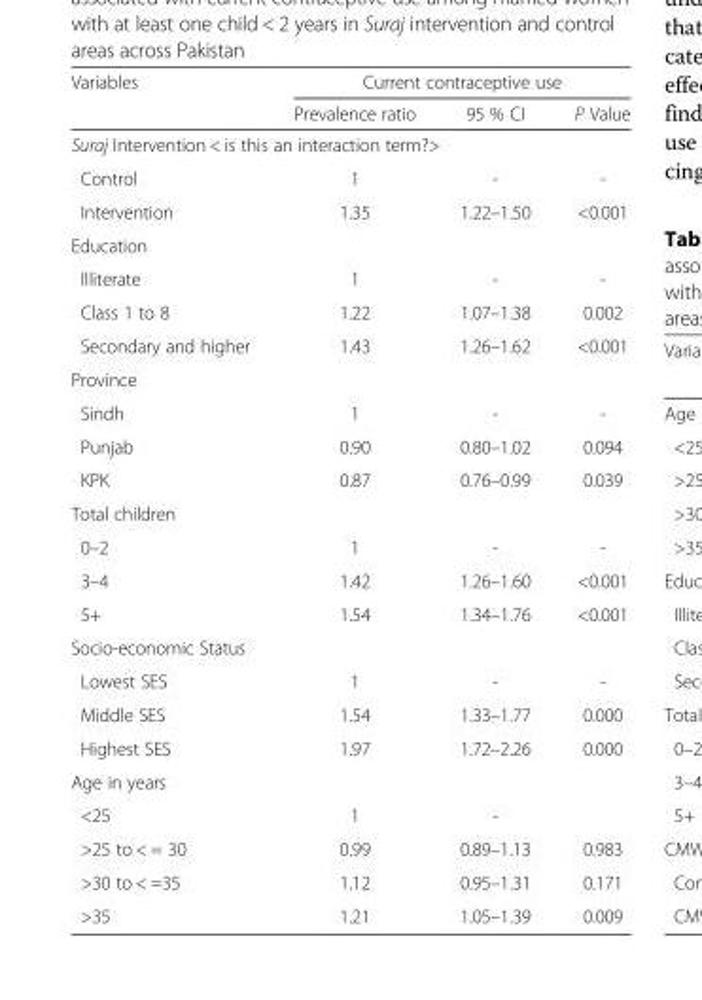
<table><thead><tr><td rowspan="2">Variables</td><td colspan="3">Current contraceptive use</td></tr><tr><td>Prevalence ratio</td><td>95 % CI</td><td>P Value</td></tr></thead><tbody><tr><td colspan="4">Suraj Intervention &lt; is this an interaction term?&gt;</td></tr><tr><td>Control</td><td>1</td><td>-</td><td>-</td></tr><tr><td>Intervention</td><td>1.35</td><td>1.22–1.50</td><td>&lt;0.001</td></tr><tr><td colspan="4">Education</td></tr><tr><td>Illiterate</td><td>1</td><td>-</td><td>-</td></tr><tr><td>Class 1 to 8</td><td>1.22</td><td>1.07–1.38</td><td>0.002</td></tr><tr><td>Secondary and higher</td><td>1.43</td><td>1.26–1.62</td><td>&lt;0.001</td></tr><tr><td colspan="4">Province</td></tr><tr><td>Sindh</td><td>1</td><td>-</td><td>-</td></tr><tr><td>Punjab</td><td>0.90</td><td>0.80–1.02</td><td>0.094</td></tr><tr><td>KPK</td><td>0.87</td><td>0.76–0.99</td><td>0.039</td></tr><tr><td colspan="4">Total children</td></tr><tr><td>0–2</td><td>1</td><td>-</td><td>-</td></tr><tr><td>3–4</td><td>1.42</td><td>1.26–1.60</td><td>&lt;0.001</td></tr><tr><td>5+</td><td>1.54</td><td>1.34–1.76</td><td>&lt;0.001</td></tr><tr><td colspan="4">Socio-economic Status</td></tr><tr><td>Lowest SES</td><td>1</td><td>-</td><td>-</td></tr><tr><td>Middle SES</td><td>1.54</td><td>1.33–1.77</td><td>0.000</td></tr><tr><td>Highest SES</td><td>1.97</td><td>1.72–2.26</td><td>0.000</td></tr><tr><td colspan="4">Age in years</td></tr><tr><td>&lt;25</td><td>1</td><td>-</td><td></td></tr><tr><td>&gt;25 to &lt; = 30</td><td>0.99</td><td>0.89–1.13</td><td>0.983</td></tr><tr><td>&gt;30 to &lt; =35</td><td>1.12</td><td>0.95–1.31</td><td>0.171</td></tr><tr><td>&gt;35</td><td>1.21</td><td>1.05–1.39</td><td>0.009</td></tr></tbody></table>